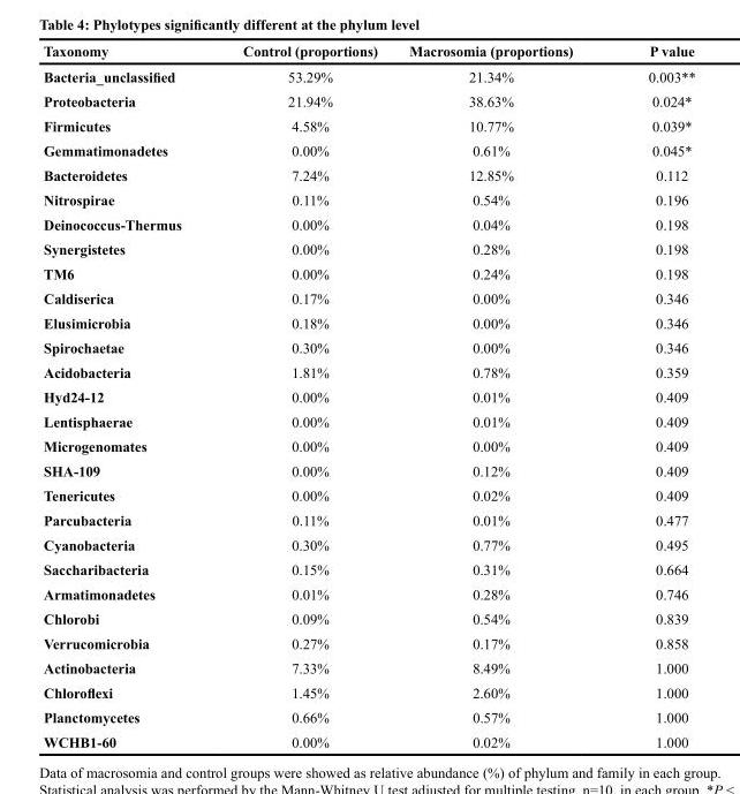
<table><thead><tr><td>Taxonomy</td><td>Control (proportions)</td><td>Macrosomia (proportions)</td><td>P value</td></tr></thead><tbody><tr><td>Bacteria_unclassified</td><td>53.29%</td><td>21.34%</td><td>0.003**</td></tr><tr><td>Proteobacteria</td><td>21.94%</td><td>38.63%</td><td>0.024*</td></tr><tr><td>Firmicutes</td><td>4.58%</td><td>10.77%</td><td>0.039*</td></tr><tr><td>Gemmatimonadetes</td><td>0.00%</td><td>0.61%</td><td>0.045*</td></tr><tr><td>Bacteroidetes</td><td>7.24%</td><td>12.85%</td><td>0.112</td></tr><tr><td>Nitrospirae</td><td>0.11%</td><td>0.54%</td><td>0.196</td></tr><tr><td>Deinococcus-Thermus</td><td>0.00%</td><td>0.04%</td><td>0.198</td></tr><tr><td>Synergistetes</td><td>0.00%</td><td>0.28%</td><td>0.198</td></tr><tr><td>TM6</td><td>0.00%</td><td>0.24%</td><td>0.198</td></tr><tr><td>Caldiserica</td><td>0.17%</td><td>0.00%</td><td>0.346</td></tr><tr><td>Elusimicrobia</td><td>0.18%</td><td>0.00%</td><td>0.346</td></tr><tr><td>Spirochaetae</td><td>0.30%</td><td>0.00%</td><td>0.346</td></tr><tr><td>Acidobacteria</td><td>1.81%</td><td>0.78%</td><td>0.359</td></tr><tr><td>Hyd24-12</td><td>0.00%</td><td>0.01%</td><td>0.409</td></tr><tr><td>Lentisphaerae</td><td>0.00%</td><td>0.01%</td><td>0.409</td></tr><tr><td>Microgenomates</td><td>0.00%</td><td>0.00%</td><td>0.409</td></tr><tr><td>SHA-109</td><td>0.00%</td><td>0.12%</td><td>0.409</td></tr><tr><td>Tenericutes</td><td>0.00%</td><td>0.02%</td><td>0.409</td></tr><tr><td>Parcubacteria</td><td>0.11%</td><td>0.01%</td><td>0.477</td></tr><tr><td>Cyanobacteria</td><td>0.30%</td><td>0.77%</td><td>0.495</td></tr><tr><td>Saccharibacteria</td><td>0.15%</td><td>0.31%</td><td>0.664</td></tr><tr><td>Armatimonadetes</td><td>0.01%</td><td>0.28%</td><td>0.746</td></tr><tr><td>Chlorobi</td><td>0.09%</td><td>0.54%</td><td>0.839</td></tr><tr><td>Verrucomicrobia</td><td>0.27%</td><td>0.17%</td><td>0.858</td></tr><tr><td>Actinobacteria</td><td>7.33%</td><td>8.49%</td><td>1.000</td></tr><tr><td>Chloroflexi</td><td>1.45%</td><td>2.60%</td><td>1.000</td></tr><tr><td>Planctomycetes</td><td>0.66%</td><td>0.57%</td><td>1.000</td></tr><tr><td>WCHB1-60</td><td>0.00%</td><td>0.02%</td><td>1.000</td></tr></tbody></table>